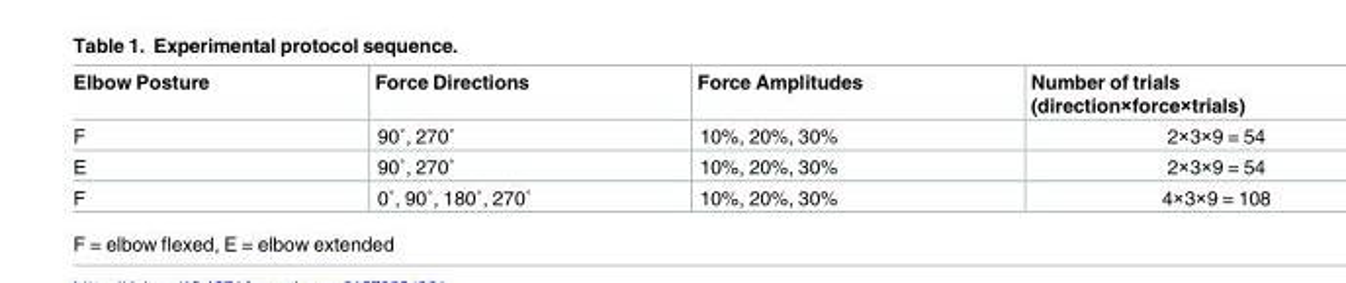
<table><thead><tr><td>Elbow Posture</td><td>Force Directions</td><td>Force Amplitudes</td><td>Number of trials (direction×force×trials)</td></tr></thead><tbody><tr><td>F</td><td>90˚, 270˚</td><td>10%, 20%, 30%</td><td>2×3×9 = 54</td></tr><tr><td>E</td><td>90˚, 270˚</td><td>10%, 20%, 30%</td><td>2×3×9 = 54</td></tr><tr><td>F</td><td>0˚, 90˚, 180˚, 270˚</td><td>10%, 20%, 30%</td><td>4×3×9 = 108</td></tr></tbody></table>